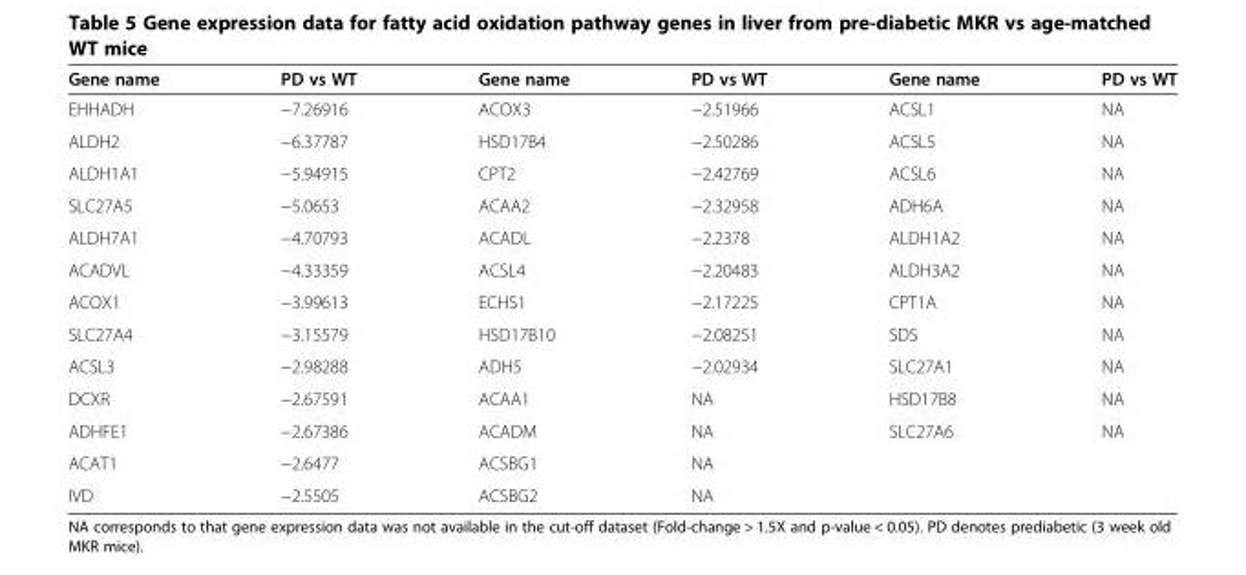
<table><thead><tr><td>Gene name</td><td>PD vs WT</td><td>Gene name</td><td>PD vs WT</td><td>Gene name</td><td>PD vs WT</td></tr></thead><tbody><tr><td>EHHADH</td><td>−7.26916</td><td>ACOX3</td><td>−2.51966</td><td>ACSL1</td><td>NA</td></tr><tr><td>ALDH2</td><td>−6.37787</td><td>HSD17B4</td><td>−2.50286</td><td>ACSL5</td><td>NA</td></tr><tr><td>ALDH1A1</td><td>−5.94915</td><td>CPT2</td><td>−2.42769</td><td>ACSL6</td><td>NA</td></tr><tr><td>SLC27A5</td><td>−5.0653</td><td>ACAA2</td><td>−2.32958</td><td>ADH6A</td><td>NA</td></tr><tr><td>ALDH7A1</td><td>−4.70793</td><td>ACADL</td><td>−2.2378</td><td>ALDH1A2</td><td>NA</td></tr><tr><td>ACADVL</td><td>−4.33359</td><td>ACSL4</td><td>−2.20483</td><td>ALDH3A2</td><td>NA</td></tr><tr><td>ACOX1</td><td>−3.99613</td><td>ECHS1</td><td>−2.17225</td><td>CPT1A</td><td>NA</td></tr><tr><td>SLC27A4</td><td>−3.15579</td><td>HSD17B10</td><td>−2.08251</td><td>SDS</td><td>NA</td></tr><tr><td>ACSL3</td><td>−2.98288</td><td>ADH5</td><td>−2.02934</td><td>SLC27A1</td><td>NA</td></tr><tr><td>DCXR</td><td>−2.67591</td><td>ACAA1</td><td>NA</td><td>HSD17B8</td><td>NA</td></tr><tr><td>ADHFE1</td><td>−2.67386</td><td>ACADM</td><td>NA</td><td>SLC27A6</td><td>NA</td></tr><tr><td>ACAT1</td><td>−2.6477</td><td>ACSBG1</td><td>NA</td><td></td><td></td></tr><tr><td>IVD</td><td>−2.5505</td><td>ACSBG2</td><td>NA</td><td></td><td></td></tr></tbody></table>